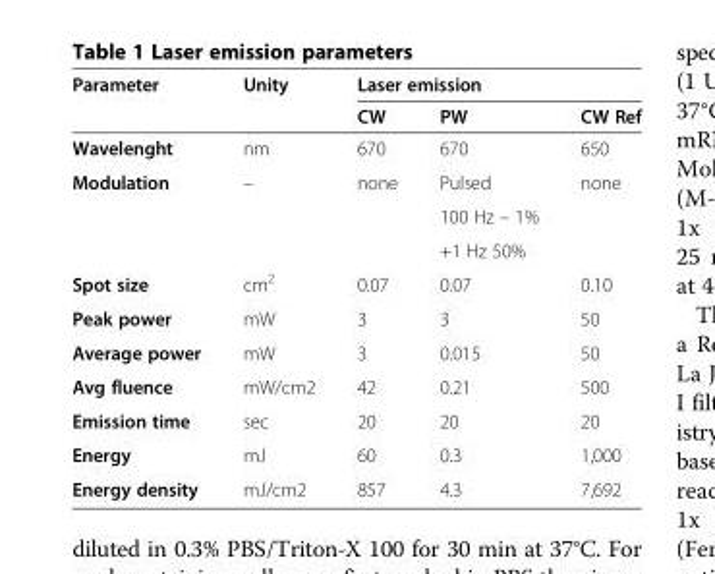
<table><thead><tr><td rowspan="2">Parameter</td><td rowspan="2">Unity</td><td colspan="3">Laser emission</td></tr><tr><td>CW</td><td>PW</td><td>CW Ref</td></tr></thead><tbody><tr><td>Wavelenght</td><td>nm</td><td>670</td><td>670</td><td>650</td></tr><tr><td rowspan="3">Modulation</td><td rowspan="3">–</td><td rowspan="3">none</td><td>Pulsed</td><td rowspan="3">none</td></tr><tr><td>100 Hz – 1%</td></tr><tr><td>+1 Hz 50%</td></tr><tr><td>Spot size</td><td>cm<sup>2</sup></td><td>0.07</td><td>0.07</td><td>0.10</td></tr><tr><td>Peak power</td><td>mW</td><td>3</td><td>3</td><td>50</td></tr><tr><td>Average power</td><td>mW</td><td>3</td><td>0.015</td><td>50</td></tr><tr><td>Avg fluence</td><td>mW/cm2</td><td>42</td><td>0.21</td><td>500</td></tr><tr><td>Emission time</td><td>sec</td><td>20</td><td>20</td><td>20</td></tr><tr><td>Energy</td><td>mJ</td><td>60</td><td>0.3</td><td>1,000</td></tr><tr><td>Energy density</td><td>mJ/cm2</td><td>857</td><td>4.3</td><td>7,692</td></tr></tbody></table>